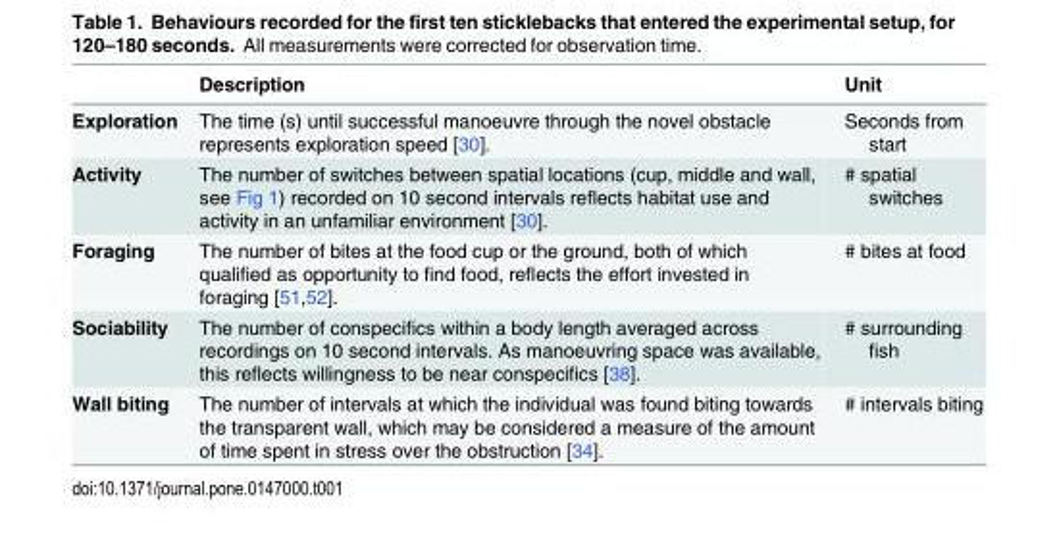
<table><thead><tr><td></td><td>Description</td><td>Unit</td></tr></thead><tbody><tr><td>Exploration</td><td>The time (s) until successful manoeuvre through the novel obstacle represents exploration speed [30].</td><td>Seconds from start</td></tr><tr><td>Activity</td><td>The number of switches between spatial locations (cup, middle and wall, see Fig 1) recorded on 10 second intervals reflects habitat use and activity in an unfamiliar environment [30].</td><td># spatial switches</td></tr><tr><td>Foraging</td><td>The number of bites at the food cup or the ground, both of which qualified as opportunity to find food, reflects the effort invested in foraging [51,52].</td><td># bites at food</td></tr><tr><td>Sociability</td><td>The number of conspecifics within a body length averaged across recordings on 10 second intervals. As manoeuvring space was available, this reflects willingness to be near conspecifics [38].</td><td># surrounding fish</td></tr><tr><td>Wall biting</td><td>The number of intervals at which the individual was found biting towards the transparent wall, which may be considered a measure of the amount of time spent in stress over the obstruction [34].</td><td># intervals biting</td></tr></tbody></table>